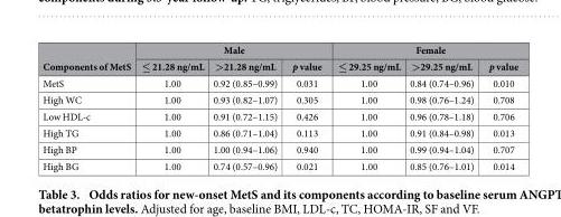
<table><thead><tr><td rowspan="2">Components of MetS</td><td colspan="3">Male</td><td colspan="3">Female</td></tr><tr><td>≤ 21.28 ng/mL</td><td>&gt;21.28 ng/mL</td><td>p value</td><td>≤ 29.25 ng/mL</td><td>&gt;29.25 ng/mL</td><td>p value</td></tr></thead><tbody><tr><td>MetS</td><td>1.00</td><td>0.92 (0.85–0.99)</td><td>0.031</td><td>1.00</td><td>0.84 (0.74–0.96)</td><td>0.010</td></tr><tr><td>High WC</td><td>1.00</td><td>0.93 (0.82–1.07)</td><td>0.305</td><td>1.00</td><td>0.98 (0.76–1.24)</td><td>0.708</td></tr><tr><td>Low HDL-c</td><td>1.00</td><td>0.91 (0.72–1.15)</td><td>0.426</td><td>1.00</td><td>0.96 (0.78–1.18)</td><td>0.706</td></tr><tr><td>High TG</td><td>1.00</td><td>0.86 (0.71–1.04)</td><td>0.113</td><td>1.00</td><td>0.91 (0.84–0.98)</td><td>0.013</td></tr><tr><td>High BP</td><td>1.00</td><td>1.00 (0.94–1.06)</td><td>0.940</td><td>1.00</td><td>0.99 (0.94–1.04)</td><td>0.707</td></tr><tr><td>High BG</td><td>1.00</td><td>0.74 (0.57–0.96)</td><td>0.021</td><td>1.00</td><td>0.85 (0.76–1.01)</td><td>0.014</td></tr></tbody></table>